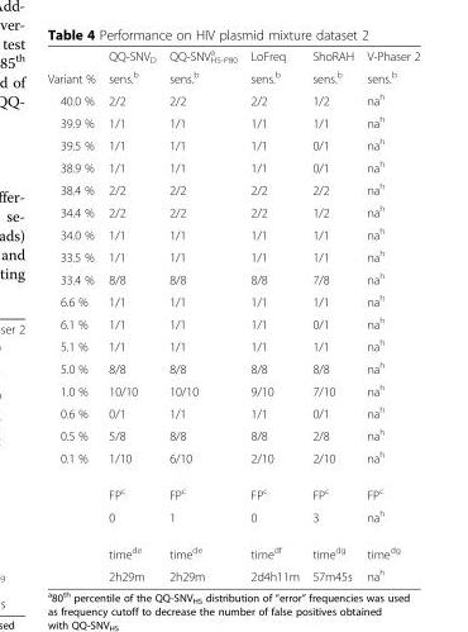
<table><thead><tr><td></td><td>QQ-SNV<sub>D</sub></td><td>QQ-SNV<sub>HS-P80</sub> <sup>a</sup></td><td>LoFreq</td><td>ShoRAH</td><td>V-Phaser 2</td></tr></thead><tbody><tr><td>Variant %</td><td>sens.<sup>b</sup></td><td>sens.<sup>b</sup></td><td>sens.<sup>b</sup></td><td>sens.<sup>b</sup></td><td>sens.<sup>b</sup></td></tr><tr><td>40.0 %</td><td>2/2</td><td>2/2</td><td>2/2</td><td>1/2</td><td>na<sup>h</sup></td></tr><tr><td>39.9 %</td><td>1/1</td><td>1/1</td><td>1/1</td><td>1/1</td><td>na<sup>h</sup></td></tr><tr><td>39.5 %</td><td>1/1</td><td>1/1</td><td>1/1</td><td>0/1</td><td>na<sup>h</sup></td></tr><tr><td>38.9 %</td><td>1/1</td><td>1/1</td><td>1/1</td><td>0/1</td><td>na<sup>h</sup></td></tr><tr><td>38.4 %</td><td>2/2</td><td>2/2</td><td>2/2</td><td>2/2</td><td>na<sup>h</sup></td></tr><tr><td>34.4 %</td><td>2/2</td><td>2/2</td><td>2/2</td><td>1/2</td><td>na<sup>h</sup></td></tr><tr><td>34.0 %</td><td>1/1</td><td>1/1</td><td>1/1</td><td>1/1</td><td>na<sup>h</sup></td></tr><tr><td>33.5 %</td><td>1/1</td><td>1/1</td><td>1/1</td><td>1/1</td><td>na<sup>h</sup></td></tr><tr><td>33.4 %</td><td>8/8</td><td>8/8</td><td>8/8</td><td>7/8</td><td>na<sup>h</sup></td></tr><tr><td>6.6 %</td><td>1/1</td><td>1/1</td><td>1/1</td><td>1/1</td><td>na<sup>h</sup></td></tr><tr><td>6.1 %</td><td>1/1</td><td>1/1</td><td>1/1</td><td>0/1</td><td>na<sup>h</sup></td></tr><tr><td>5.1 %</td><td>1/1</td><td>1/1</td><td>1/1</td><td>1/1</td><td>na<sup>h</sup></td></tr><tr><td>5.0 %</td><td>8/8</td><td>8/8</td><td>8/8</td><td>8/8</td><td>na<sup>h</sup></td></tr><tr><td>1.0 %</td><td>10/10</td><td>10/10</td><td>9/10</td><td>7/10</td><td>na<sup>h</sup></td></tr><tr><td>0.6 %</td><td>0/1</td><td>1/1</td><td>1/1</td><td>0/1</td><td>na<sup>h</sup></td></tr><tr><td>0.5 %</td><td>5/8</td><td>8/8</td><td>8/8</td><td>2/8</td><td>na<sup>h</sup></td></tr><tr><td rowspan="5">0.1 %</td><td>1/10</td><td>6/10</td><td>2/10</td><td>2/10</td><td>na<sup>h</sup></td></tr><tr><td>FP<sup>c</sup></td><td>FP<sup>c</sup></td><td>FP<sup>c</sup></td><td>FP<sup>c</sup></td><td>FP<sup>c</sup></td></tr><tr><td>0</td><td>1</td><td>0</td><td>3</td><td>na<sup>h</sup></td></tr><tr><td>time<sup>de</sup></td><td>time<sup>de</sup></td><td>time<sup>df</sup></td><td>time<sup>dg</sup></td><td>time<sup>dg</sup></td></tr><tr><td>2h29m</td><td>2h29m</td><td>2d4h11m</td><td>57m45s</td><td>na<sup>h</sup></td></tr></tbody></table>